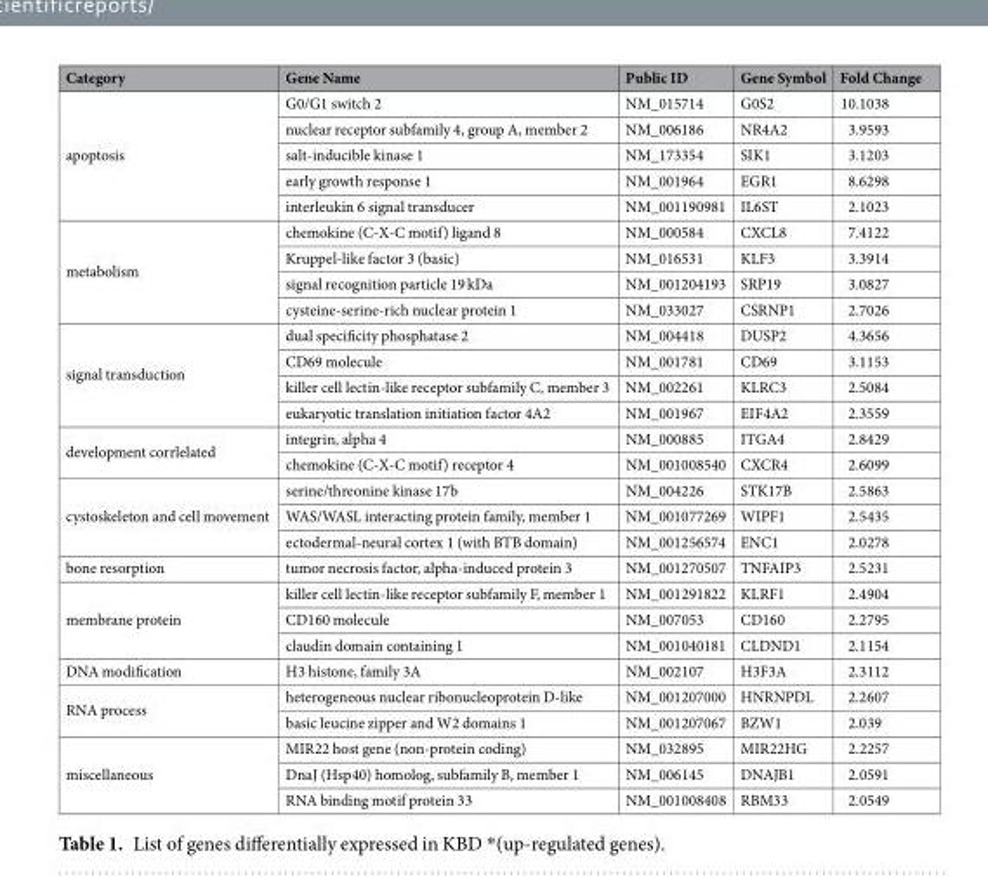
<table><thead><tr><td>Category</td><td>Gene Name</td><td>Public ID</td><td>Gene Symbol</td><td>Fold Change</td></tr></thead><tbody><tr><td rowspan="5">apoptosis</td><td>G0/G1 switch 2</td><td>NM_015714</td><td>G0S2</td><td>10.1038</td></tr><tr><td>nuclear receptor subfamily 4, group A, member 2</td><td>NM_006186</td><td>NR4A2</td><td>3.9593</td></tr><tr><td>salt-inducible kinase 1</td><td>NM_173354</td><td>SIK1</td><td>3.1203</td></tr><tr><td>early growth response 1</td><td>NM_001964</td><td>EGR1</td><td>8.6298</td></tr><tr><td>interleukin 6 signal transducer</td><td>NM_001190981</td><td>IL6ST</td><td>2.1023</td></tr><tr><td rowspan="4">metabolism</td><td>chemokine (C-X-C motif) ligand 8</td><td>NM_000584</td><td>CXCL8</td><td>7.4122</td></tr><tr><td>Kruppel-like factor 3 (basic)</td><td>NM_016531</td><td>KLF3</td><td>3.3914</td></tr><tr><td>signal recognition particle 19 kDa</td><td>NM_001204193</td><td>SRP19</td><td>3.0827</td></tr><tr><td>cysteine-serine-rich nuclear protein 1</td><td>NM_033027</td><td>CSRNP1</td><td>2.7026</td></tr><tr><td rowspan="4">signal transduction</td><td>dual specificity phosphatase 2</td><td>NM_004418</td><td>DUSP2</td><td>4.3656</td></tr><tr><td>CD69 molecule</td><td>NM_001781</td><td>CD69</td><td>3.1153</td></tr><tr><td>killer cell lectin-like receptor subfamily C, member 3</td><td>NM_002261</td><td>KLRC3</td><td>2.5084</td></tr><tr><td>eukaryotic translation initiation factor 4A2</td><td>NM_001967</td><td>EIF4A2</td><td>2.3559</td></tr><tr><td rowspan="2">development corrlelated</td><td>integrin, alpha 4</td><td>NM_000885</td><td>ITGA4</td><td>2.8429</td></tr><tr><td>chemokine (C-X-C motif) receptor 4</td><td>NM_001008540</td><td>CXCR4</td><td>2.6099</td></tr><tr><td rowspan="3">cystoskeleton and cell movement</td><td>serine/threonine kinase 17b</td><td>NM_004226</td><td>STK17B</td><td>2.5863</td></tr><tr><td>WAS/WASL interacting protein family, member 1</td><td>NM_001077269</td><td>WIPF1</td><td>2.5435</td></tr><tr><td>ectodermal-neural cortex 1 (with BTB domain)</td><td>NM_001256574</td><td>ENC1</td><td>2.0278</td></tr><tr><td>bone resorption</td><td>tumor necrosis factor, alpha-induced protein 3</td><td>NM_001270507</td><td>TNFAIP3</td><td>2.5231</td></tr><tr><td rowspan="3">membrane protein</td><td>killer cell lectin-like receptor subfamily F, member 1</td><td>NM_001291822</td><td>KLRF1</td><td>2.4904</td></tr><tr><td>CD160 molecule</td><td>NM_007053</td><td>CD160</td><td>2.2795</td></tr><tr><td>claudin domain containing 1</td><td>NM_001040181</td><td>CLDND1</td><td>2.1154</td></tr><tr><td>DNA modification</td><td>H3 histone, family 3A</td><td>NM_002107</td><td>H3F3A</td><td>2.3112</td></tr><tr><td rowspan="2">RNA process</td><td>heterogeneous nuclear ribonucleoprotein D-like</td><td>NM_001207000</td><td>HNRNPDL</td><td>2.2607</td></tr><tr><td>basic leucine zipper and W2 domains 1</td><td>NM_001207067</td><td>BZW1</td><td>2.039</td></tr><tr><td rowspan="3">miscellaneous</td><td>MIR22 host gene (non-protein coding)</td><td>NM_032895</td><td>MIR22HG</td><td>2.2257</td></tr><tr><td>DnaJ (Hsp40) homolog, subfamily B, member 1</td><td>NM_006145</td><td>DNAJB1</td><td>2.0591</td></tr><tr><td>RNA binding motif protein 33</td><td>NM_001008408</td><td>RBM33</td><td>2.0549</td></tr></tbody></table>